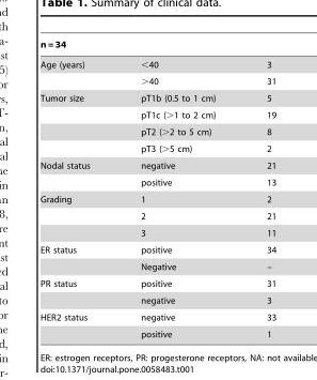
<table><thead><tr><td colspan="3">n = 34</td></tr><tr><td>Age (years)</td><td>&lt;40</td><td>3</td></tr></thead><tbody><tr><td></td><td>&gt;40</td><td>31</td></tr><tr><td rowspan="4">Tumor size</td><td>pT1b (0.5 to 1 cm)</td><td>5</td></tr><tr><td>pT1c (&gt;1 to 2 cm)</td><td>19</td></tr><tr><td>pT2 (&gt;2 to 5 cm)</td><td>8</td></tr><tr><td>pT3 (&gt;5 cm)</td><td>2</td></tr><tr><td rowspan="2">Nodal status</td><td>negative</td><td>21</td></tr><tr><td>positive</td><td>13</td></tr><tr><td rowspan="3">Grading</td><td>1</td><td>2</td></tr><tr><td>2</td><td>21</td></tr><tr><td>3</td><td>11</td></tr><tr><td rowspan="2">ER status</td><td>positive</td><td>34</td></tr><tr><td>Negative</td><td>–</td></tr><tr><td rowspan="2">PR status</td><td>positive</td><td>31</td></tr><tr><td>negative</td><td>3</td></tr><tr><td rowspan="2">HER2 status</td><td>negative</td><td>33</td></tr><tr><td>positive</td><td>1</td></tr></tbody></table>